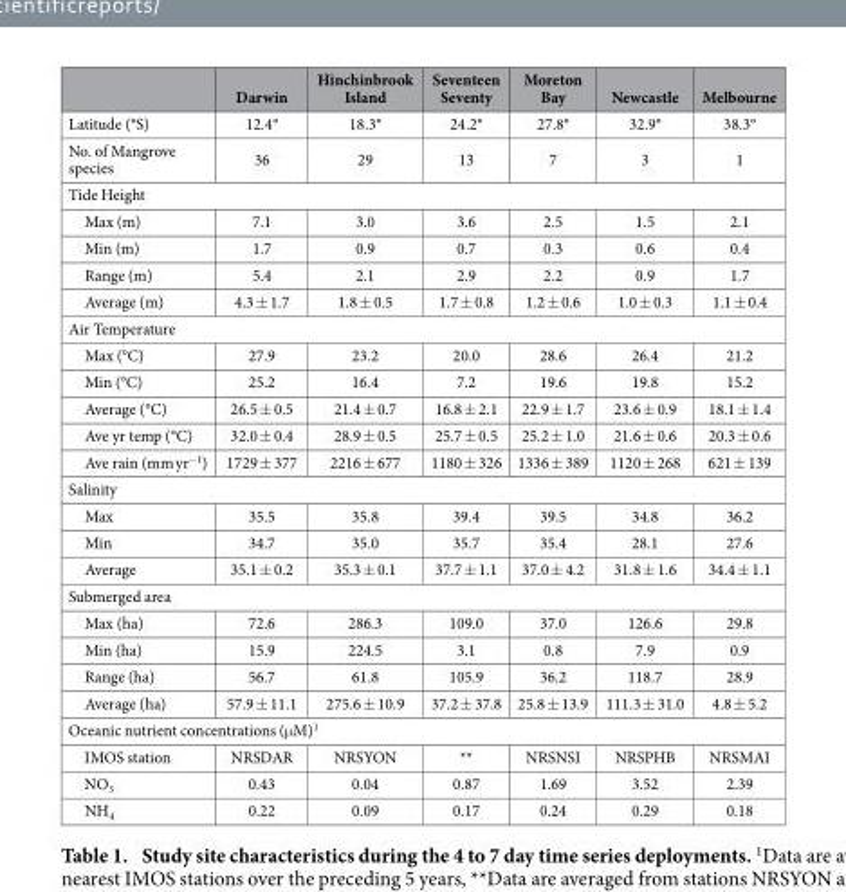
<table><thead><tr><td></td><td>Darwin</td><td>Hinchinbrook Island</td><td>Seventeen Seventy</td><td>Moreton Bay</td><td>Newcastle</td><td>Melbourne</td></tr></thead><tbody><tr><td>Latitude (°S)</td><td>12.4°</td><td>18.3°</td><td>24.2°</td><td>27.8°</td><td>32.9°</td><td>38.3°</td></tr><tr><td>No. of Mangrove species</td><td>36</td><td>29</td><td>13</td><td>7</td><td>3</td><td>1</td></tr><tr><td colspan="7">Tide Height</td></tr><tr><td>Max (m)</td><td>7.1</td><td>3.0</td><td>3.6</td><td>2.5</td><td>1.5</td><td>2.1</td></tr><tr><td>Min (m)</td><td>1.7</td><td>0.9</td><td>0.7</td><td>0.3</td><td>0.6</td><td>0.4</td></tr><tr><td>Range (m)</td><td>5.4</td><td>2.1</td><td>2.9</td><td>2.2</td><td>0.9</td><td>1.7</td></tr><tr><td>Average (m)</td><td>4.3 ± 1.7</td><td>1.8 ± 0.5</td><td>1.7 ± 0.8</td><td>1.2 ± 0.6</td><td>1.0 ± 0.3</td><td>1.1 ± 0.4</td></tr><tr><td colspan="7">Air Temperature</td></tr><tr><td>Max (°C)</td><td>27.9</td><td>23.2</td><td>20.0</td><td>28.6</td><td>26.4</td><td>21.2</td></tr><tr><td>Min (°C)</td><td>25.2</td><td>16.4</td><td>7.2</td><td>19.6</td><td>19.8</td><td>15.2</td></tr><tr><td>Average (°C)</td><td>26.5 ± 0.5</td><td>21.4 ± 0.7</td><td>16.8 ± 2.1</td><td>22.9 ± 1.7</td><td>23.6 ± 0.9</td><td>18.1 ± 1.4</td></tr><tr><td>Ave yr temp (°C)</td><td>32.0 ± 0.4</td><td>28.9 ± 0.5</td><td>25.7 ± 0.5</td><td>25.2 ± 1.0</td><td>21.6 ± 0.6</td><td>20.3 ± 0.6</td></tr><tr><td>Ave rain (mm yr<sup>−1</sup>)</td><td>1729 ± 377</td><td>2216 ± 677</td><td>1180 ± 326</td><td>1336 ± 389</td><td>1120 ± 268</td><td>621 ± 139</td></tr><tr><td colspan="7">Salinity</td></tr><tr><td>Max</td><td>35.5</td><td>35.8</td><td>39.4</td><td>39.5</td><td>34.8</td><td>36.2</td></tr><tr><td>Min</td><td>34.7</td><td>35.0</td><td>35.7</td><td>35.4</td><td>28.1</td><td>27.6</td></tr><tr><td>Average</td><td>35.1 ± 0.2</td><td>35.3 ± 0.1</td><td>37.7 ± 1.1</td><td>37.0 ± 4.2</td><td>31.8 ± 1.6</td><td>34.4 ± 1.1</td></tr><tr><td colspan="7">Submerged area</td></tr><tr><td>Max (ha)</td><td>72.6</td><td>286.3</td><td>109.0</td><td>37.0</td><td>126.6</td><td>29.8</td></tr><tr><td>Min (ha)</td><td>15.9</td><td>224.5</td><td>3.1</td><td>0.8</td><td>7.9</td><td>0.9</td></tr><tr><td>Range (ha)</td><td>56.7</td><td>61.8</td><td>105.9</td><td>36.2</td><td>118.7</td><td>28.9</td></tr><tr><td>Average (ha)</td><td>57.9 ± 11.1</td><td>275.6 ± 10.9</td><td>37.2 ± 37.8</td><td>25.8 ± 13.9</td><td>111.3 ± 31.0</td><td>4.8 ± 5.2</td></tr><tr><td colspan="7">Oceanic nutrient concentrations (μ M)<sup>1</sup></td></tr><tr><td>IMOS station</td><td>NRSDAR</td><td>NRSYON</td><td>**</td><td>NRSNSI</td><td>NRSPHB</td><td>NRSMAI</td></tr><tr><td>NO<sub>3</sub></td><td>0.43</td><td>0.04</td><td>0.87</td><td>1.69</td><td>3.52</td><td>2.39</td></tr><tr><td>NH<sub>4</sub></td><td>0.22</td><td>0.09</td><td>0.17</td><td>0.24</td><td>0.29</td><td>0.18</td></tr></tbody></table>